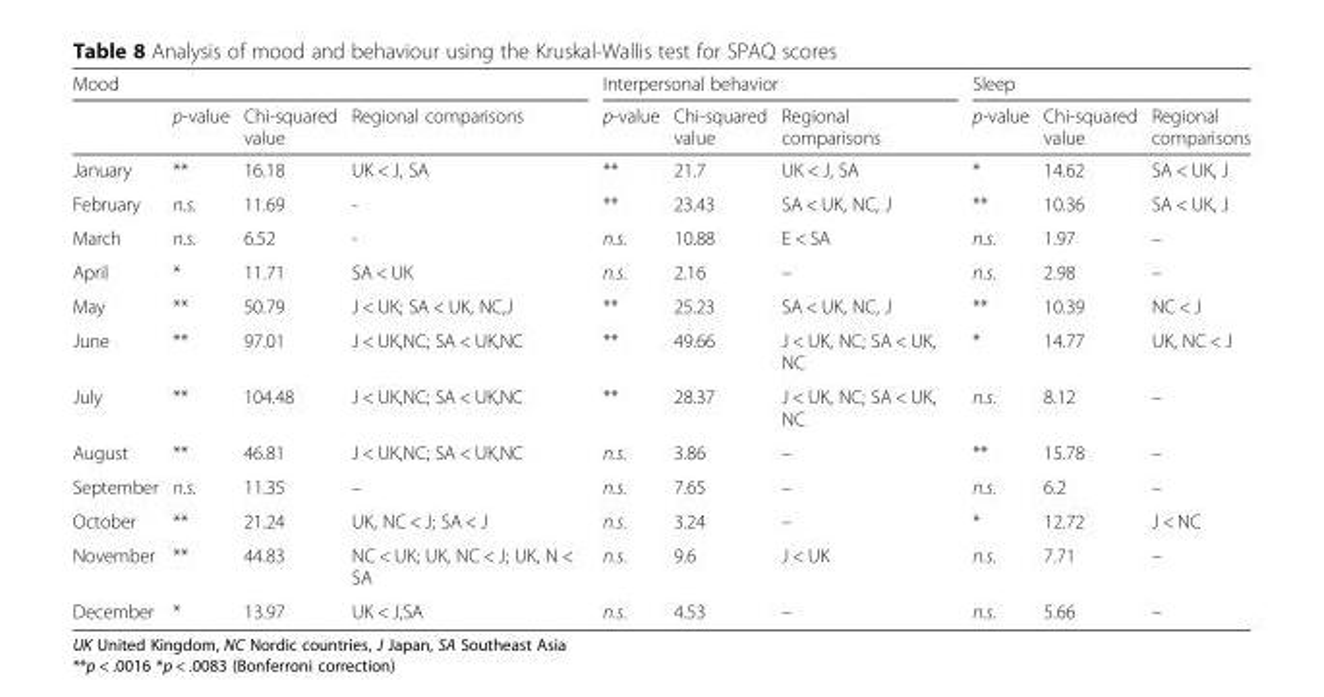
<table><thead><tr><td colspan="4">Mood</td><td colspan="3">Interpersonal behavior</td><td colspan="3">Sleep</td></tr><tr><td></td><td>p-value</td><td>Chi-squared value</td><td>Regional comparisons</td><td>p-value</td><td>Chi-squared value</td><td>Regional comparisons</td><td>p-value</td><td>Chi-squared value</td><td>Regional comparisons</td></tr></thead><tbody><tr><td>January</td><td>**</td><td>16.18</td><td>UK &lt; J, SA</td><td>**</td><td>21.7</td><td>UK &lt; J, SA</td><td>*</td><td>14.62</td><td>SA &lt; UK, J</td></tr><tr><td>February</td><td>n.s.</td><td>11.69</td><td>-</td><td>**</td><td>23.43</td><td>SA &lt; UK, NC, J</td><td>**</td><td>10.36</td><td>SA &lt; UK, J</td></tr><tr><td>March</td><td>n.s.</td><td>6.52</td><td>-</td><td>n.s.</td><td>10.88</td><td>E &lt; SA</td><td>n.s.</td><td>1.97</td><td>–</td></tr><tr><td>April</td><td>*</td><td>11.71</td><td>SA &lt; UK</td><td>n.s.</td><td>2.16</td><td>–</td><td>n.s.</td><td>2.98</td><td>–</td></tr><tr><td>May</td><td>**</td><td>50.79</td><td>J &lt; UK; SA &lt; UK, NC,J</td><td>**</td><td>25.23</td><td>SA &lt; UK, NC, J</td><td>**</td><td>10.39</td><td>NC &lt; J</td></tr><tr><td>June</td><td>**</td><td>97.01</td><td>J &lt; UK,NC; SA &lt; UK,NC</td><td>**</td><td>49.66</td><td>J &lt; UK, NC; SA &lt; UK, NC</td><td>*</td><td>14.77</td><td>UK, NC &lt; J</td></tr><tr><td>July</td><td>**</td><td>104.48</td><td>J &lt; UK,NC; SA &lt; UK,NC</td><td>**</td><td>28.37</td><td>J &lt; UK, NC; SA &lt; UK, NC</td><td>n.s.</td><td>8.12</td><td>–</td></tr><tr><td>August</td><td>**</td><td>46.81</td><td>J &lt; UK,NC; SA &lt; UK,NC</td><td>n.s.</td><td>3.86</td><td>–</td><td>**</td><td>15.78</td><td>–</td></tr><tr><td>September</td><td>n.s.</td><td>11.35</td><td>–</td><td>n.s.</td><td>7.65</td><td>–</td><td>n.s.</td><td>6.2</td><td>–</td></tr><tr><td>October</td><td>**</td><td>21.24</td><td>UK, NC &lt; J; SA &lt; J</td><td>n.s.</td><td>3.24</td><td>–</td><td>*</td><td>12.72</td><td>J &lt; NC</td></tr><tr><td>November</td><td>**</td><td>44.83</td><td>NC &lt; UK; UK, NC &lt; J; UK, N &lt; SA</td><td>n.s.</td><td>9.6</td><td>J &lt; UK</td><td>n.s.</td><td>7.71</td><td>–</td></tr><tr><td>December</td><td>*</td><td>13.97</td><td>UK &lt; J,SA</td><td>n.s.</td><td>4.53</td><td>–</td><td>n.s.</td><td>5.66</td><td>–</td></tr></tbody></table>